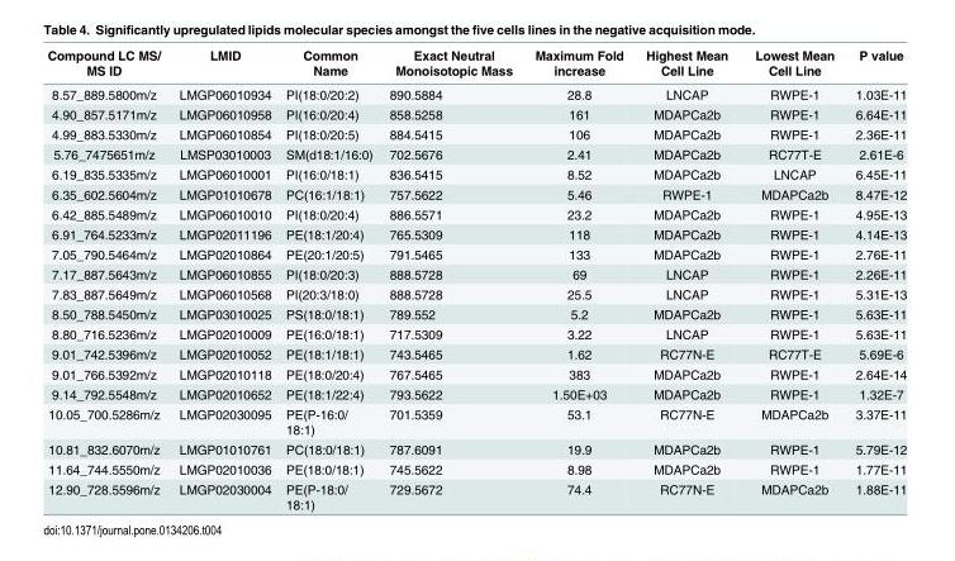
<table><thead><tr><td>Compound LC MS/ MS ID</td><td>LMID</td><td>Common Name</td><td>Exact Neutral Monoisotopic Mass</td><td>Maximum Fold increase</td><td>Highest Mean Cell Line</td><td>Lowest Mean Cell Line</td><td>P value</td></tr></thead><tbody><tr><td>8.57_889.5800m/z</td><td>LMGP06010934</td><td>PI(18:0/20:2)</td><td>890.5884</td><td>28.8</td><td>LNCAP</td><td>RWPE-1</td><td>1.03E-11</td></tr><tr><td>4.90_857.5171m/z</td><td>LMGP06010958</td><td>PI(16:0/20:4)</td><td>858.5258</td><td>161</td><td>MDAPCa2b</td><td>RWPE-1</td><td>6.64E-11</td></tr><tr><td>4.99_883.5330m/z</td><td>LMGP06010854</td><td>PI(18:0/20:5)</td><td>884.5415</td><td>106</td><td>MDAPCa2b</td><td>RWPE-1</td><td>2.36E-11</td></tr><tr><td>5.76_7475651m/z</td><td>LMSP03010003</td><td>SM(d18:1/16:0)</td><td>702.5676</td><td>2.41</td><td>MDAPCa2b</td><td>RC77T-E</td><td>2.61E-6</td></tr><tr><td>6.19_835.5335m/z</td><td>LMGP06010001</td><td>PI(16:0/18:1)</td><td>836.5415</td><td>8.52</td><td>MDAPCa2b</td><td>LNCAP</td><td>6.45E-11</td></tr><tr><td>6.35_602.5604m/z</td><td>LMGP01010678</td><td>PC(16:1/18:1)</td><td>757.5622</td><td>5.46</td><td>RWPE-1</td><td>MDAPCa2b</td><td>8.47E-12</td></tr><tr><td>6.42_885.5489m/z</td><td>LMGP06010010</td><td>PI(18:0/20:4)</td><td>886.5571</td><td>23.2</td><td>MDAPCa2b</td><td>RWPE-1</td><td>4.95E-13</td></tr><tr><td>6.91_764.5233m/z</td><td>LMGP02011196</td><td>PE(18:1/20:4)</td><td>765.5309</td><td>118</td><td>MDAPCa2b</td><td>RWPE-1</td><td>4.14E-13</td></tr><tr><td>7.05_790.5464m/z</td><td>LMGP02010864</td><td>PE(20:1/20:5)</td><td>791.5465</td><td>133</td><td>MDAPCa2b</td><td>RWPE-1</td><td>2.76E-11</td></tr><tr><td>7.17_887.5643m/z</td><td>LMGP06010855</td><td>PI(18:0/20:3)</td><td>888.5728</td><td>69</td><td>LNCAP</td><td>RWPE-1</td><td>2.26E-11</td></tr><tr><td>7.83_887.5649m/z</td><td>LMGP06010568</td><td>PI(20:3/18:0)</td><td>888.5728</td><td>25.5</td><td>LNCAP</td><td>RWPE-1</td><td>5.31E-13</td></tr><tr><td>8.50_788.5450m/z</td><td>LMGP03010025</td><td>PS(18:0/18:1)</td><td>789.552</td><td>5.2</td><td>MDAPCa2b</td><td>RWPE-1</td><td>5.63E-11</td></tr><tr><td>8.80_716.5236m/z</td><td>LMGP02010009</td><td>PE(16:0/18:1)</td><td>717.5309</td><td>3.22</td><td>LNCAP</td><td>RWPE-1</td><td>5.63E-11</td></tr><tr><td>9.01_742.5396m/z</td><td>LMGP02010052</td><td>PE(18:1/18:1)</td><td>743.5465</td><td>1.62</td><td>RC77N-E</td><td>RC77T-E</td><td>5.69E-6</td></tr><tr><td>9.01_766.5392m/z</td><td>LMGP02010118</td><td>PE(18:0/20:4)</td><td>767.5465</td><td>383</td><td>MDAPCa2b</td><td>RWPE-1</td><td>2.64E-14</td></tr><tr><td>9.14_792.5548m/z</td><td>LMGP02010652</td><td>PE(18:1/22:4)</td><td>793.5622</td><td>1.50E+03</td><td>MDAPCa2b</td><td>RWPE-1</td><td>1.32E-7</td></tr><tr><td>10.05_700.5286m/z</td><td>LMGP02030095</td><td>PE(P-16:0/ 18:1)</td><td>701.5359</td><td>53.1</td><td>RC77N-E</td><td>MDAPCa2b</td><td>3.37E-11</td></tr><tr><td>10.81_832.6070m/z</td><td>LMGP01010761</td><td>PC(18:0/18:1)</td><td>787.6091</td><td>19.9</td><td>MDAPCa2b</td><td>RWPE-1</td><td>5.79E-12</td></tr><tr><td>11.64_744.5550m/z</td><td>LMGP02010036</td><td>PE(18:0/18:1)</td><td>745.5622</td><td>8.98</td><td>MDAPCa2b</td><td>RWPE-1</td><td>1.77E-11</td></tr><tr><td>12.90_728.5596m/z</td><td>LMGP02030004</td><td>PE(P-18:0/ 18:1)</td><td>729.5672</td><td>74.4</td><td>RC77N-E</td><td>MDAPCa2b</td><td>1.88E-11</td></tr></tbody></table>